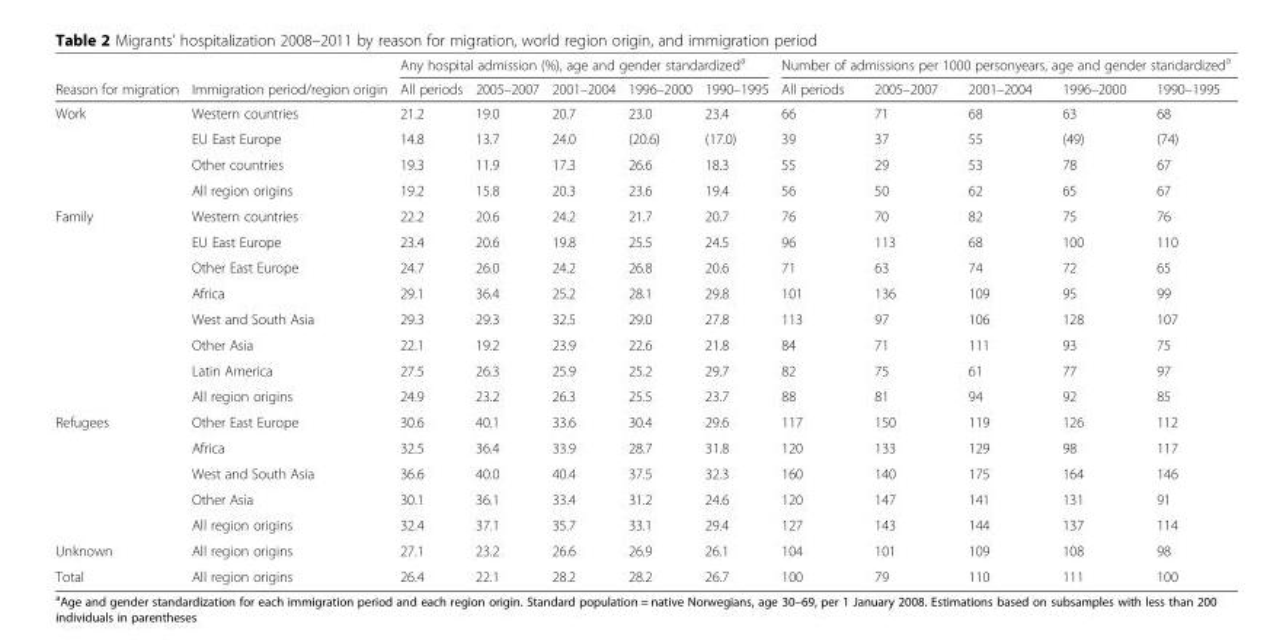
<table><thead><tr><td rowspan="2">Reason for migration</td><td rowspan="2">Immigration period/region origin</td><td colspan="5">Any hospital admission (%), age and gender standardized<sup>a</sup></td><td colspan="5">Number of admissions per 1000 personyears, age and gender standardized<sup>a</sup></td></tr><tr><td>All periods</td><td>2005–2007</td><td>2001–2004</td><td>1996–2000</td><td>1990–1995</td><td>All periods</td><td>2005–2007</td><td>2001–2004</td><td>1996–2000</td><td>1990–1995</td></tr></thead><tbody><tr><td rowspan="4">Work</td><td>Western countries</td><td>21.2</td><td>19.0</td><td>20.7</td><td>23.0</td><td>23.4</td><td>66</td><td>71</td><td>68</td><td>63</td><td>68</td></tr><tr><td>EU East Europe</td><td>14.8</td><td>13.7</td><td>24.0</td><td>(20.6)</td><td>(17.0)</td><td>39</td><td>37</td><td>55</td><td>(49)</td><td>(74)</td></tr><tr><td>Other countries</td><td>19.3</td><td>11.9</td><td>17.3</td><td>26.6</td><td>18.3</td><td>55</td><td>29</td><td>53</td><td>78</td><td>67</td></tr><tr><td>All region origins</td><td>19.2</td><td>15.8</td><td>20.3</td><td>23.6</td><td>19.4</td><td>56</td><td>50</td><td>62</td><td>65</td><td>67</td></tr><tr><td rowspan="8">Family</td><td>Western countries</td><td>22.2</td><td>20.6</td><td>24.2</td><td>21.7</td><td>20.7</td><td>76</td><td>70</td><td>82</td><td>75</td><td>76</td></tr><tr><td>EU East Europe</td><td>23.4</td><td>20.6</td><td>19.8</td><td>25.5</td><td>24.5</td><td>96</td><td>113</td><td>68</td><td>100</td><td>110</td></tr><tr><td>Other East Europe</td><td>24.7</td><td>26.0</td><td>24.2</td><td>26.8</td><td>20.6</td><td>71</td><td>63</td><td>74</td><td>72</td><td>65</td></tr><tr><td>Africa</td><td>29.1</td><td>36.4</td><td>25.2</td><td>28.1</td><td>29.8</td><td>101</td><td>136</td><td>109</td><td>95</td><td>99</td></tr><tr><td>West and South Asia</td><td>29.3</td><td>29.3</td><td>32.5</td><td>29.0</td><td>27.8</td><td>113</td><td>97</td><td>106</td><td>128</td><td>107</td></tr><tr><td>Other Asia</td><td>22.1</td><td>19.2</td><td>23.9</td><td>22.6</td><td>21.8</td><td>84</td><td>71</td><td>111</td><td>93</td><td>75</td></tr><tr><td>Latin America</td><td>27.5</td><td>26.3</td><td>25.9</td><td>25.2</td><td>29.7</td><td>82</td><td>75</td><td>61</td><td>77</td><td>97</td></tr><tr><td>All region origins</td><td>24.9</td><td>23.2</td><td>26.3</td><td>25.5</td><td>23.7</td><td>88</td><td>81</td><td>94</td><td>92</td><td>85</td></tr><tr><td rowspan="5">Refugees</td><td>Other East Europe</td><td>30.6</td><td>40.1</td><td>33.6</td><td>30.4</td><td>29.6</td><td>117</td><td>150</td><td>119</td><td>126</td><td>112</td></tr><tr><td>Africa</td><td>32.5</td><td>36.4</td><td>33.9</td><td>28.7</td><td>31.8</td><td>120</td><td>133</td><td>129</td><td>98</td><td>117</td></tr><tr><td>West and South Asia</td><td>36.6</td><td>40.0</td><td>40.4</td><td>37.5</td><td>32.3</td><td>160</td><td>140</td><td>175</td><td>164</td><td>146</td></tr><tr><td>Other Asia</td><td>30.1</td><td>36.1</td><td>33.4</td><td>31.2</td><td>24.6</td><td>120</td><td>147</td><td>141</td><td>131</td><td>91</td></tr><tr><td>All region origins</td><td>32.4</td><td>37.1</td><td>35.7</td><td>33.1</td><td>29.4</td><td>127</td><td>143</td><td>144</td><td>137</td><td>114</td></tr><tr><td>Unknown</td><td>All region origins</td><td>27.1</td><td>23.2</td><td>26.6</td><td>26.9</td><td>26.1</td><td>104</td><td>101</td><td>109</td><td>108</td><td>98</td></tr><tr><td>Total</td><td>All region origins</td><td>26.4</td><td>22.1</td><td>28.2</td><td>28.2</td><td>26.7</td><td>100</td><td>79</td><td>110</td><td>111</td><td>100</td></tr></tbody></table>